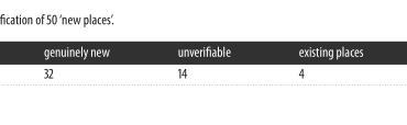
<table><thead><tr><td>genuinely new</td><td>unverifiable</td><td>existing places</td></tr></thead><tbody><tr><td>32</td><td>14</td><td>4</td></tr></tbody></table>